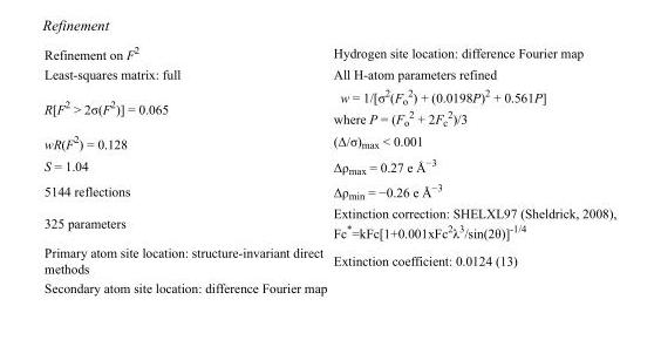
<table><tbody><tr><td>Refinement on F<sup>2</sup></td><td>Hydrogen site location: difference Fourier map</td></tr><tr><td>Least-squares matrix: full</td><td>All H-atom parameters refined</td></tr><tr><td>R[F<sup>2</sup> &gt; 2σ(F<sup>2</sup>)] = 0.065</td><td>w = 1/[σ<sup>2</sup>(F<sub>o</sub> <sup>2</sup>) + (0.0198P)<sup>2</sup> + 0.561P] where P = (F<sub>o</sub> <sup>2</sup> + 2F<sub>c</sub> <sup>2</sup>)/3</td></tr><tr><td>wR(F<sup>2</sup>) = 0.128</td><td>(Δ/σ)<sub>max</sub> &lt; 0.001</td></tr><tr><td>S = 1.04</td><td>Δρ<sub>max</sub> = 0.27 e Å<sup>−3</sup></td></tr><tr><td>5144 reflections</td><td>Δρ<sub>min</sub> = −0.26 e Å<sup>−3</sup></td></tr><tr><td>325 parameters</td><td>Extinction correction: SHELXL97 (Sheldrick, 2008), Fc*=kFc[1+0.001xFc<sup>2</sup>λ<sup>3</sup>/sin(2θ)]<sup>-1/4</sup></td></tr><tr><td>Primary atom site location: structure-invariant direct methods</td><td>Extinction coefficient: 0.0124 (13)</td></tr><tr><td>Secondary atom site location: difference Fourier map</td><td></td></tr></tbody></table>